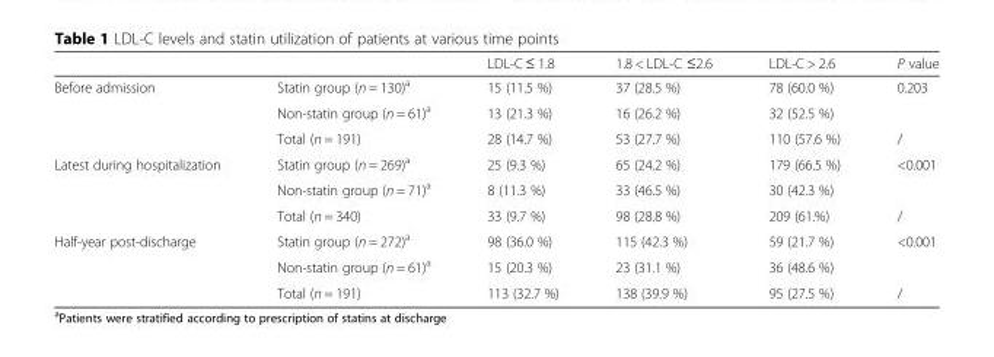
<table><thead><tr><td></td><td></td><td>LDL-C ≤ 1.8</td><td>1.8 &lt; LDL-C ≤2.6</td><td>LDL-C &gt; 2.6</td><td>P value</td></tr></thead><tbody><tr><td rowspan="3">Before admission</td><td>Statin group (n = 130)<sup>a</sup></td><td>15 (11.5 %)</td><td>37 (28.5 %)</td><td>78 (60.0 %)</td><td rowspan="2">0.203</td></tr><tr><td>Non-statin group (n = 61)<sup>a</sup></td><td>13 (21.3 %)</td><td>16 (26.2 %)</td><td>32 (52.5 %)</td></tr><tr><td>Total (n = 191)</td><td>28 (14.7 %)</td><td>53 (27.7 %)</td><td>110 (57.6 %)</td><td>/</td></tr><tr><td rowspan="3">Latest during hospitalization</td><td>Statin group (n = 269)<sup>a</sup></td><td>25 (9.3 %)</td><td>65 (24.2 %)</td><td>179 (66.5 %)</td><td rowspan="2">&lt;0.001</td></tr><tr><td>Non-statin group (n = 71)<sup>a</sup></td><td>8 (11.3 %)</td><td>33 (46.5 %)</td><td>30 (42.3 %)</td></tr><tr><td>Total (n = 340)</td><td>33 (9.7 %)</td><td>98 (28.8 %)</td><td>209 (61.%)</td><td>/</td></tr><tr><td rowspan="3">Half-year post-discharge</td><td>Statin group (n = 272)<sup>a</sup></td><td>98 (36.0 %)</td><td>115 (42.3 %)</td><td>59 (21.7 %)</td><td rowspan="2">&lt;0.001</td></tr><tr><td>Non-statin group (n = 61)<sup>a</sup></td><td>15 (20.3 %)</td><td>23 (31.1 %)</td><td>36 (48.6 %)</td></tr><tr><td>Total (n = 191)</td><td>113 (32.7 %)</td><td>138 (39.9 %)</td><td>95 (27.5 %)</td><td>/</td></tr></tbody></table>